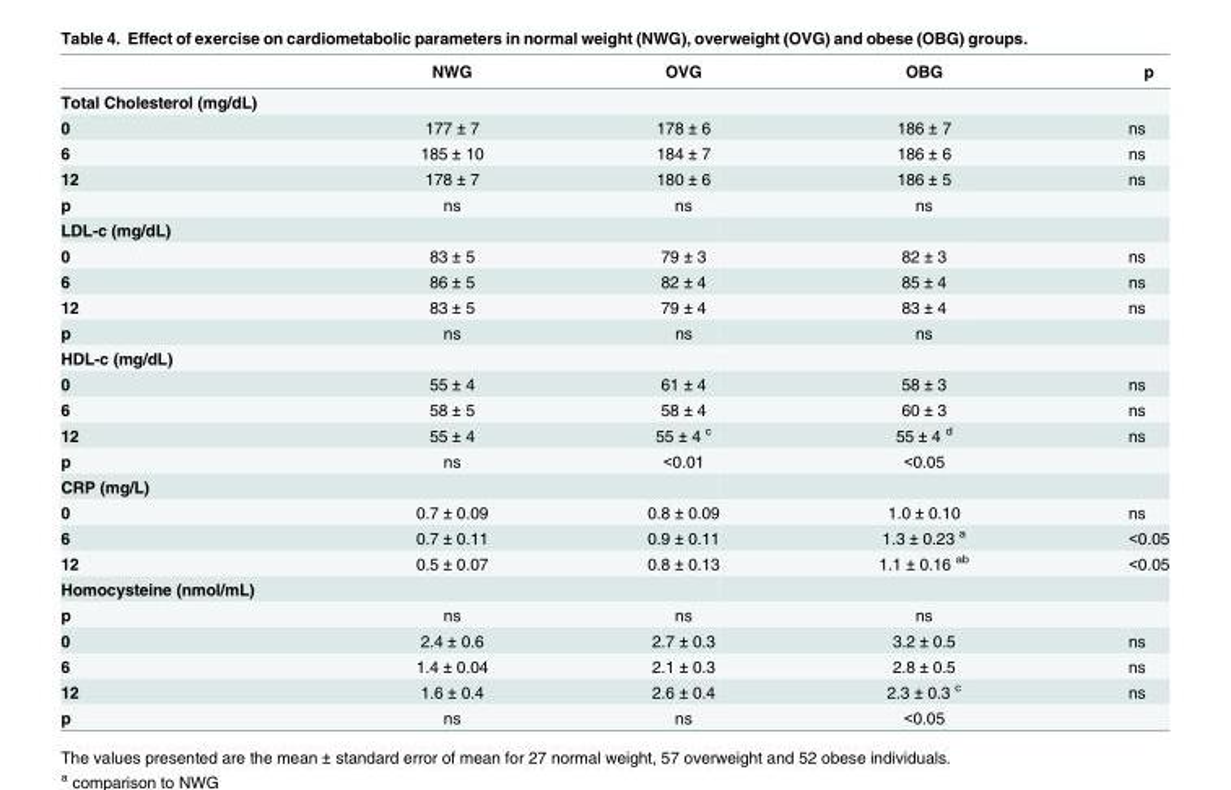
<table><thead><tr><td></td><td>NWG</td><td>OVG</td><td>OBG</td><td>p</td></tr></thead><tbody><tr><td colspan="5">Total Cholesterol (mg/dL)</td></tr><tr><td>0</td><td>177 ± 7</td><td>178 ± 6</td><td>186 ± 7</td><td>ns</td></tr><tr><td>6</td><td>185 ± 10</td><td>184 ± 7</td><td>186 ± 6</td><td>ns</td></tr><tr><td>12</td><td>178 ± 7</td><td>180 ± 6</td><td>186 ± 5</td><td>ns</td></tr><tr><td>p</td><td>ns</td><td>ns</td><td>ns</td><td></td></tr><tr><td colspan="5">LDL-c (mg/dL)</td></tr><tr><td>0</td><td>83 ± 5</td><td>79 ± 3</td><td>82 ± 3</td><td>ns</td></tr><tr><td>6</td><td>86 ± 5</td><td>82 ± 4</td><td>85 ± 4</td><td>ns</td></tr><tr><td>12</td><td>83 ± 5</td><td>79 ± 4</td><td>83 ± 4</td><td>ns</td></tr><tr><td>p</td><td>ns</td><td>ns</td><td>ns</td><td></td></tr><tr><td colspan="5">HDL-c (mg/dL)</td></tr><tr><td>0</td><td>55 ± 4</td><td>61 ± 4</td><td>58 ± 3</td><td>ns</td></tr><tr><td>6</td><td>58 ± 5</td><td>58 ± 4</td><td>60 ± 3</td><td>ns</td></tr><tr><td>12</td><td>55 ± 4</td><td>55 ± 4 <sup>c</sup></td><td>55 ± 4 <sup>d</sup></td><td>ns</td></tr><tr><td>p</td><td>ns</td><td>&lt;0.01</td><td>&lt;0.05</td><td></td></tr><tr><td colspan="5">CRP (mg/L)</td></tr><tr><td>0</td><td>0.7 ± 0.09</td><td>0.8 ± 0.09</td><td>1.0 ± 0.10</td><td>ns</td></tr><tr><td>6</td><td>0.7 ± 0.11</td><td>0.9 ± 0.11</td><td>1.3 ± 0.23 <sup>a</sup></td><td>&lt;0.05</td></tr><tr><td>12</td><td>0.5 ± 0.07</td><td>0.8 ± 0.13</td><td>1.1 ± 0.16 <sup>ab</sup></td><td>&lt;0.05</td></tr><tr><td colspan="5">Homocysteine (nmol/mL)</td></tr><tr><td>p</td><td>ns</td><td>ns</td><td>ns</td><td></td></tr><tr><td>0</td><td>2.4 ± 0.6</td><td>2.7 ± 0.3</td><td>3.2 ± 0.5</td><td>ns</td></tr><tr><td>6</td><td>1.4 ± 0.04</td><td>2.1 ± 0.3</td><td>2.8 ± 0.5</td><td>ns</td></tr><tr><td>12</td><td>1.6 ± 0.4</td><td>2.6 ± 0.4</td><td>2.3 ± 0.3 <sup>c</sup></td><td>ns</td></tr><tr><td>p</td><td>ns</td><td>ns</td><td>&lt;0.05</td><td></td></tr></tbody></table>